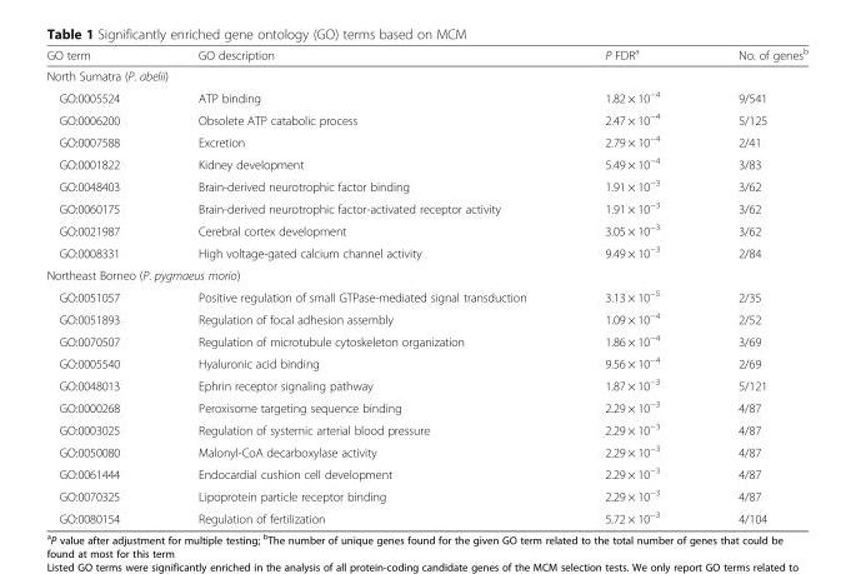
<table><thead><tr><td>GO term</td><td>GO description</td><td>P FDR<sup>a</sup></td><td>No. of genes<sup>b</sup></td></tr></thead><tbody><tr><td colspan="4">North Sumatra (P. abelii)</td></tr><tr><td>GO:0005524</td><td>ATP binding</td><td>1.82 × 10<sup>−4</sup></td><td>9/541</td></tr><tr><td>GO:0006200</td><td>Obsolete ATP catabolic process</td><td>2.47 × 10<sup>−4</sup></td><td>5/125</td></tr><tr><td>GO:0007588</td><td>Excretion</td><td>2.79 × 10<sup>−4</sup></td><td>2/41</td></tr><tr><td>GO:0001822</td><td>Kidney development</td><td>5.49 × 10<sup>−4</sup></td><td>3/83</td></tr><tr><td>GO:0048403</td><td>Brain-derived neurotrophic factor binding</td><td>1.91 × 10<sup>−3</sup></td><td>3/62</td></tr><tr><td>GO:0060175</td><td>Brain-derived neurotrophic factor-activated receptor activity</td><td>1.91 × 10<sup>−3</sup></td><td>3/62</td></tr><tr><td>GO:0021987</td><td>Cerebral cortex development</td><td>3.05 × 10<sup>−3</sup></td><td>3/62</td></tr><tr><td>GO:0008331</td><td>High voltage-gated calcium channel activity</td><td>9.49 × 10<sup>−3</sup></td><td>2/84</td></tr><tr><td colspan="4">Northeast Borneo (P. pygmaeus morio)</td></tr><tr><td>GO:0051057</td><td>Positive regulation of small GTPase-mediated signal transduction</td><td>3.13 × 10<sup>−5</sup></td><td>2/35</td></tr><tr><td>GO:0051893</td><td>Regulation of focal adhesion assembly</td><td>1.09 × 10<sup>−4</sup></td><td>2/52</td></tr><tr><td>GO:0070507</td><td>Regulation of microtubule cytoskeleton organization</td><td>1.86 × 10<sup>−4</sup></td><td>3/69</td></tr><tr><td>GO:0005540</td><td>Hyaluronic acid binding</td><td>9.56 × 10<sup>−4</sup></td><td>2/69</td></tr><tr><td>GO:0048013</td><td>Ephrin receptor signaling pathway</td><td>1.87 × 10<sup>−3</sup></td><td>5/121</td></tr><tr><td>GO:0000268</td><td>Peroxisome targeting sequence binding</td><td>2.29 × 10<sup>−3</sup></td><td>4/87</td></tr><tr><td>GO:0003025</td><td>Regulation of systemic arterial blood pressure</td><td>2.29 × 10<sup>−3</sup></td><td>4/87</td></tr><tr><td>GO:0050080</td><td>Malonyl-CoA decarboxylase activity</td><td>2.29 × 10<sup>−3</sup></td><td>4/87</td></tr><tr><td>GO:0061444</td><td>Endocardial cushion cell development</td><td>2.29 × 10<sup>−3</sup></td><td>4/87</td></tr><tr><td>GO:0070325</td><td>Lipoprotein particle receptor binding</td><td>2.29 × 10<sup>−3</sup></td><td>4/87</td></tr><tr><td>GO:0080154</td><td>Regulation of fertilization</td><td>5.72 × 10<sup>−3</sup></td><td>4/104</td></tr></tbody></table>